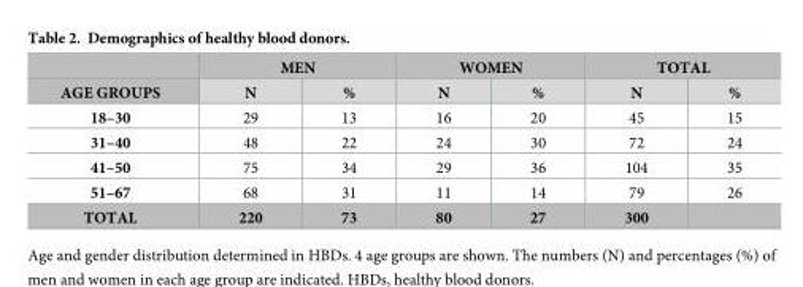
<table><thead><tr><td rowspan="2">AGE GROUPS</td><td colspan="2">MEN</td><td colspan="2">WOMEN</td><td colspan="2">TOTAL</td></tr><tr><td>N</td><td>%</td><td>N</td><td>%</td><td>N</td><td>%</td></tr></thead><tbody><tr><td>18–30</td><td>29</td><td>13</td><td>16</td><td>20</td><td>45</td><td>15</td></tr><tr><td>31–40</td><td>48</td><td>22</td><td>24</td><td>30</td><td>72</td><td>24</td></tr><tr><td>41–50</td><td>75</td><td>34</td><td>29</td><td>36</td><td>104</td><td>35</td></tr><tr><td>51–67</td><td>68</td><td>31</td><td>11</td><td>14</td><td>79</td><td>26</td></tr><tr><td>TOTAL</td><td>220</td><td>73</td><td>80</td><td>27</td><td>300</td><td></td></tr></tbody></table>